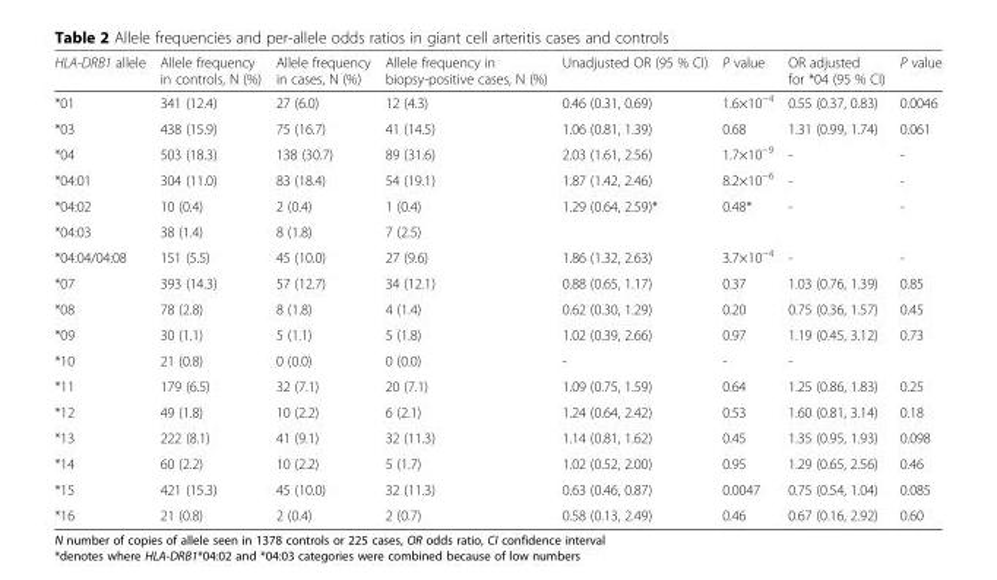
<table><thead><tr><td>HLA-DRB1 allele</td><td>Allele frequency in controls, N (%)</td><td>Allele frequency in cases, N (%)</td><td>Allele frequency in biopsy-positive cases, N (%)</td><td>Unadjusted OR (95 % CI)</td><td>P value</td><td>OR adjusted for *04 (95 % CI)</td><td>P value</td></tr></thead><tbody><tr><td>*01</td><td>341 (12.4)</td><td>27 (6.0)</td><td>12 (4.3)</td><td>0.46 (0.31, 0.69)</td><td>1.6×10<sup>−4</sup></td><td>0.55 (0.37, 0.83)</td><td>0.0046</td></tr><tr><td>*03</td><td>438 (15.9)</td><td>75 (16.7)</td><td>41 (14.5)</td><td>1.06 (0.81, 1.39)</td><td>0.68</td><td>1.31 (0.99, 1.74)</td><td>0.061</td></tr><tr><td>*04</td><td>503 (18.3)</td><td>138 (30.7)</td><td>89 (31.6)</td><td>2.03 (1.61, 2.56)</td><td>1.7×10<sup>−9</sup></td><td>-</td><td>-</td></tr><tr><td>*04:01</td><td>304 (11.0)</td><td>83 (18.4)</td><td>54 (19.1)</td><td>1.87 (1.42, 2.46)</td><td>8.2×10<sup>−6</sup></td><td>-</td><td>-</td></tr><tr><td>*04:02</td><td>10 (0.4)</td><td>2 (0.4)</td><td>1 (0.4)</td><td rowspan="2">1.29 (0.64, 2.59)*</td><td rowspan="2">0.48*</td><td rowspan="2">-</td><td rowspan="2">-</td></tr><tr><td>*04:03</td><td>38 (1.4)</td><td>8 (1.8)</td><td>7 (2.5)</td></tr><tr><td>*04:04/04:08</td><td>151 (5.5)</td><td>45 (10.0)</td><td>27 (9.6)</td><td>1.86 (1.32, 2.63)</td><td>3.7×10<sup>−4</sup></td><td>-</td><td>-</td></tr><tr><td>*07</td><td>393 (14.3)</td><td>57 (12.7)</td><td>34 (12.1)</td><td>0.88 (0.65, 1.17)</td><td>0.37</td><td>1.03 (0.76, 1.39)</td><td>0.85</td></tr><tr><td>*08</td><td>78 (2.8)</td><td>8 (1.8)</td><td>4 (1.4)</td><td>0.62 (0.30, 1.29)</td><td>0.20</td><td>0.75 (0.36, 1.57)</td><td>0.45</td></tr><tr><td>*09</td><td>30 (1.1)</td><td>5 (1.1)</td><td>5 (1.8)</td><td>1.02 (0.39, 2.66)</td><td>0.97</td><td>1.19 (0.45, 3.12)</td><td>0.73</td></tr><tr><td>*10</td><td>21 (0.8)</td><td>0 (0.0)</td><td>0 (0.0)</td><td>-</td><td>-</td><td>-</td><td></td></tr><tr><td>*11</td><td>179 (6.5)</td><td>32 (7.1)</td><td>20 (7.1)</td><td>1.09 (0.75, 1.59)</td><td>0.64</td><td>1.25 (0.86, 1.83)</td><td>0.25</td></tr><tr><td>*12</td><td>49 (1.8)</td><td>10 (2.2)</td><td>6 (2.1)</td><td>1.24 (0.64, 2.42)</td><td>0.53</td><td>1.60 (0.81, 3.14)</td><td>0.18</td></tr><tr><td>*13</td><td>222 (8.1)</td><td>41 (9.1)</td><td>32 (11.3)</td><td>1.14 (0.81, 1.62)</td><td>0.45</td><td>1.35 (0.95, 1.93)</td><td>0.098</td></tr><tr><td>*14</td><td>60 (2.2)</td><td>10 (2.2)</td><td>5 (1.7)</td><td>1.02 (0.52, 2.00)</td><td>0.95</td><td>1.29 (0.65, 2.56)</td><td>0.46</td></tr><tr><td>*15</td><td>421 (15.3)</td><td>45 (10.0)</td><td>32 (11.3)</td><td>0.63 (0.46, 0.87)</td><td>0.0047</td><td>0.75 (0.54, 1.04)</td><td>0.085</td></tr><tr><td>*16</td><td>21 (0.8)</td><td>2 (0.4)</td><td>2 (0.7)</td><td>0.58 (0.13, 2.49)</td><td>0.46</td><td>0.67 (0.16, 2.92)</td><td>0.60</td></tr></tbody></table>